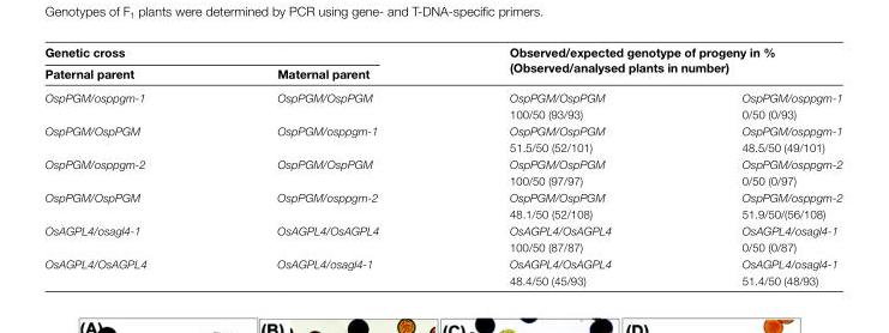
<table><thead><tr><td colspan="2">Genetic cross</td><td rowspan="2" colspan="2">Observed/expected genotype of progeny in % (Observed/analysed plants in number)</td></tr><tr><td rowspan="2">Paternal parent OspPGM/osppgm-1</td><td rowspan="2">Maternal parent OspPGM/OspPGM</td></tr><tr><td>OspPGM/OspPGM 100/50 (93/93)</td><td>OspPGM/osppgm-1 0/50 (0/93)</td></tr></thead><tbody><tr><td>OspPGM/OspPGM</td><td>OspPGM/osppgm-1</td><td>OspPGM/OspPGM 51.5/50 (52/101)</td><td>OspPGM/osppgm-1 48.5/50 (49/101)</td></tr><tr><td>OspPGM/osppgm-2</td><td>OspPGM/OspPGM</td><td>OspPGM/OspPGM 100/50 (97/97)</td><td>OspPGM/osppgm-2 0/50 (0/97)</td></tr><tr><td>OspPGM/OspPGM</td><td>OspPGM/osppgm-2</td><td>OspPGM/OspPGM 48.1/50 (52/108)</td><td>OspPGM/osppgm-2 51.9/50/(56/108)</td></tr><tr><td>OsAGPL4/osagl4-1</td><td>OsAGPL4/OsAGPL4</td><td>OsAGPL4/OsAGPL4 100/50 (87/87)</td><td>OsAGPL4/osagl4-1 0/50 (0/87)</td></tr><tr><td>OsAGPL4/OsAGPL4</td><td>OsAGPL4/osagl4-1</td><td>OsAGPL4/OsAGPL4 48.4/50 (45/93)</td><td>OsAGPL4/osagl4-1 51.4/50 (48/93)</td></tr></tbody></table>